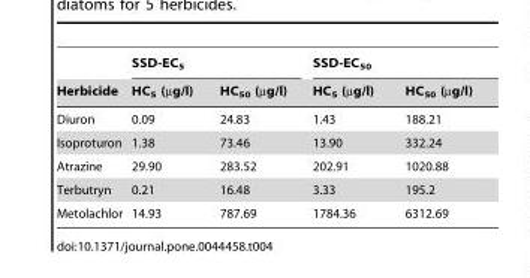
<table><thead><tr><td rowspan="2">Herbicide</td><td colspan="2">SSD-EC<sub>5</sub></td><td colspan="2">SSD-EC<sub>50</sub></td></tr><tr><td>HC<sub>5</sub> (µg/l)</td><td>HC<sub>50</sub> (µg/l)</td><td>HC<sub>5</sub> (µg/l)</td><td>HC<sub>50</sub> (µg/l)</td></tr></thead><tbody><tr><td>Diuron</td><td>0.09</td><td>24.83</td><td>1.43</td><td>188.21</td></tr><tr><td>Isoproturon</td><td>1.38</td><td>73.46</td><td>13.90</td><td>332.24</td></tr><tr><td>Atrazine</td><td>29.90</td><td>283.52</td><td>202.91</td><td>1020.88</td></tr><tr><td>Terbutryn</td><td>0.21</td><td>16.48</td><td>3.33</td><td>195.2</td></tr><tr><td>Metolachlor</td><td>14.93</td><td>787.69</td><td>1784.36</td><td>6312.69</td></tr></tbody></table>